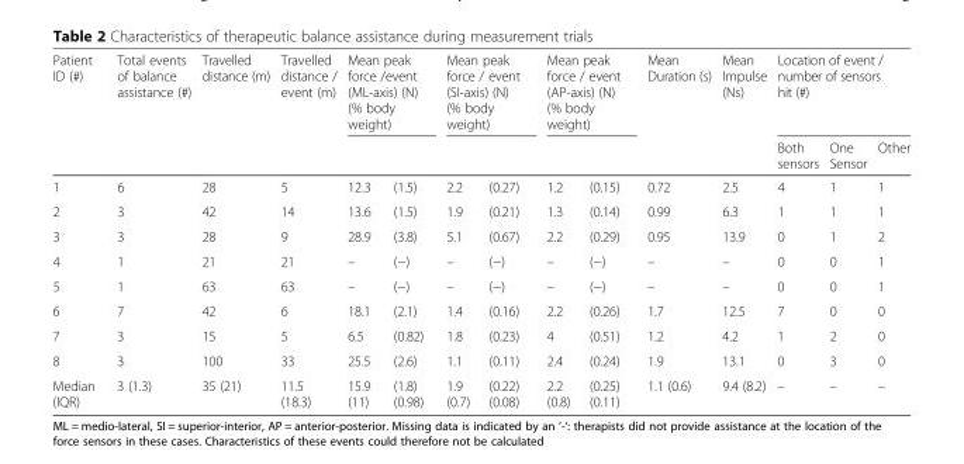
<table><thead><tr><td rowspan="2">Patient ID (#)</td><td rowspan="2">Total events of balance assistance (#)</td><td rowspan="2">Travelled distance (m)</td><td rowspan="2">Travelled distance / event (m)</td><td colspan="2">Mean peak force /event (ML-axis) (N) (% body weight)</td><td colspan="2">Mean peak force / event (SI-axis) (N) (% body weight)</td><td colspan="2">Mean peak force / event (AP-axis) (N) (% body weight)</td><td rowspan="2">Mean Duration (s)</td><td rowspan="2">Mean Impulse (Ns)</td><td colspan="3">Location of event / number of sensors hit (#)</td></tr><tr><td></td><td></td><td></td><td></td><td></td><td></td><td>Both sensors</td><td>One Sensor</td><td>Other</td></tr></thead><tbody><tr><td>1</td><td>6</td><td>28</td><td>5</td><td>12.3</td><td>(1.5)</td><td>2.2</td><td>(0.27)</td><td>1.2</td><td>(0.15)</td><td>0.72</td><td>2.5</td><td>4</td><td>1</td><td>1</td></tr><tr><td>2</td><td>3</td><td>42</td><td>14</td><td>13.6</td><td>(1.5)</td><td>1.9</td><td>(0.21)</td><td>1.3</td><td>(0.14)</td><td>0.99</td><td>6.3</td><td>1</td><td>1</td><td>1</td></tr><tr><td>3</td><td>3</td><td>28</td><td>9</td><td>28.9</td><td>(3.8)</td><td>5.1</td><td>(0.67)</td><td>2.2</td><td>(0.29)</td><td>0.95</td><td>13.9</td><td>0</td><td>1</td><td>2</td></tr><tr><td>4</td><td>1</td><td>21</td><td>21</td><td>–</td><td>(−)</td><td>–</td><td>(−)</td><td>–</td><td>(−)</td><td>–</td><td>–</td><td>0</td><td>0</td><td>1</td></tr><tr><td>5</td><td>1</td><td>63</td><td>63</td><td>–</td><td>(−)</td><td>–</td><td>(−)</td><td>–</td><td>(−)</td><td>–</td><td>–</td><td>0</td><td>0</td><td>1</td></tr><tr><td>6</td><td>7</td><td>42</td><td>6</td><td>18.1</td><td>(2.1)</td><td>1.4</td><td>(0.16)</td><td>2.2</td><td>(0.26)</td><td>1.7</td><td>12.5</td><td>7</td><td>0</td><td>0</td></tr><tr><td>7</td><td>3</td><td>15</td><td>5</td><td>6.5</td><td>(0.82)</td><td>1.8</td><td>(0.23)</td><td>4</td><td>(0.51)</td><td>1.2</td><td>4.2</td><td>1</td><td>2</td><td>0</td></tr><tr><td>8</td><td>3</td><td>100</td><td>33</td><td>25.5</td><td>(2.6)</td><td>1.1</td><td>(0.11)</td><td>2.4</td><td>(0.24)</td><td>1.9</td><td>13.1</td><td>0</td><td>3</td><td>0</td></tr><tr><td>Median (IQR)</td><td>3 (1.3)</td><td>35 (21)</td><td>11.5 (18.3)</td><td>15.9 (11)</td><td>(1.8) (0.98)</td><td>1.9 (0.7)</td><td>(0.22) (0.08)</td><td>2.2 (0.8)</td><td>(0.25) (0.11)</td><td>1.1 (0.6)</td><td>9.4 (8.2)</td><td>–</td><td>–</td><td>–</td></tr></tbody></table>